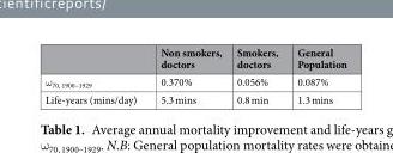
<table><thead><tr><td></td><td>Non smokers, doctors</td><td>Smokers, doctors</td><td>General Population</td></tr></thead><tbody><tr><td>ω<sub>70, 1900–1929</sub></td><td>0.370%</td><td>0.056%</td><td>0.087%</td></tr><tr><td>Life-years (mins/day)</td><td>5.3 mins</td><td>0.8 min</td><td>1.3 mins</td></tr></tbody></table>